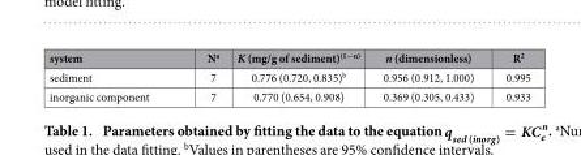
<table><thead><tr><td>system</td><td>N<sup>a</sup></td><td>K (mg/g of sediment)<sup>(1−n)</sup></td><td>n (dimensionless)</td><td>R<sup>2</sup></td></tr></thead><tbody><tr><td>sediment</td><td>7</td><td>0.776 (0.720, 0.835)<sup>b</sup></td><td>0.956 (0.912, 1.000)</td><td>0.995</td></tr><tr><td>inorganic component</td><td>7</td><td>0.770 (0.654, 0.908)</td><td>0.369 (0.305, 0.433)</td><td>0.933</td></tr></tbody></table>